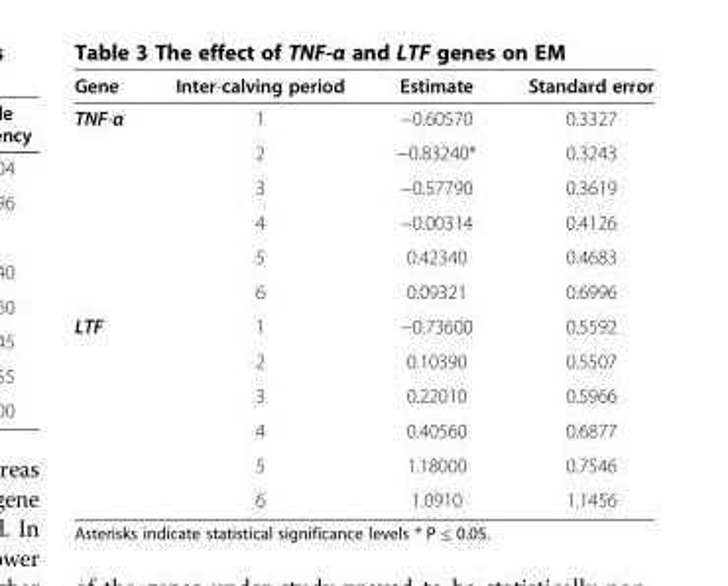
<table><thead><tr><td>Gene</td><td>Inter-calving period</td><td>Estimate</td><td>Standard error</td></tr></thead><tbody><tr><td rowspan="6">TNF-α</td><td>1</td><td>−0.60570</td><td>0.3327</td></tr><tr><td>2</td><td>−0.83240*</td><td>0.3243</td></tr><tr><td>3</td><td>−0.57790</td><td>0.3619</td></tr><tr><td>4</td><td>−0.00314</td><td>0.4126</td></tr><tr><td>5</td><td>0.42340</td><td>0.4683</td></tr><tr><td>6</td><td>0.09321</td><td>0.6996</td></tr><tr><td rowspan="6">LTF</td><td>1</td><td>−0.73600</td><td>0.5592</td></tr><tr><td>2</td><td>0.10390</td><td>0.5507</td></tr><tr><td>3</td><td>0.22010</td><td>0.5966</td></tr><tr><td>4</td><td>0.40560</td><td>0.6877</td></tr><tr><td>5</td><td>1.18000</td><td>0.7546</td></tr><tr><td>6</td><td>1.0910</td><td>1.1456</td></tr></tbody></table>